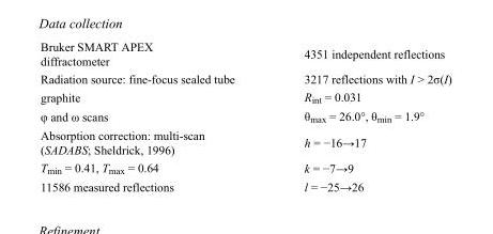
<table><tbody><tr><td>Bruker SMART APEX diffractometer</td><td>4351 independent reflections</td></tr><tr><td>Radiation source: fine-focus sealed tube</td><td>3217 reflections with I &gt; 2σ(I)</td></tr><tr><td>graphite</td><td>R<sub>int</sub> = 0.031</td></tr><tr><td>φ and ω scans</td><td>θ<sub>max</sub> = 26.0°, θ<sub>min</sub> = 1.9°</td></tr><tr><td>Absorption correction: multi-scan (SADABS; Sheldrick, 1996)</td><td>h = −16→17</td></tr><tr><td>T<sub>min</sub> = 0.41, T<sub>max</sub> = 0.64</td><td>k = −7→9</td></tr><tr><td>11586 measured reflections</td><td>l = −25→26</td></tr></tbody></table>